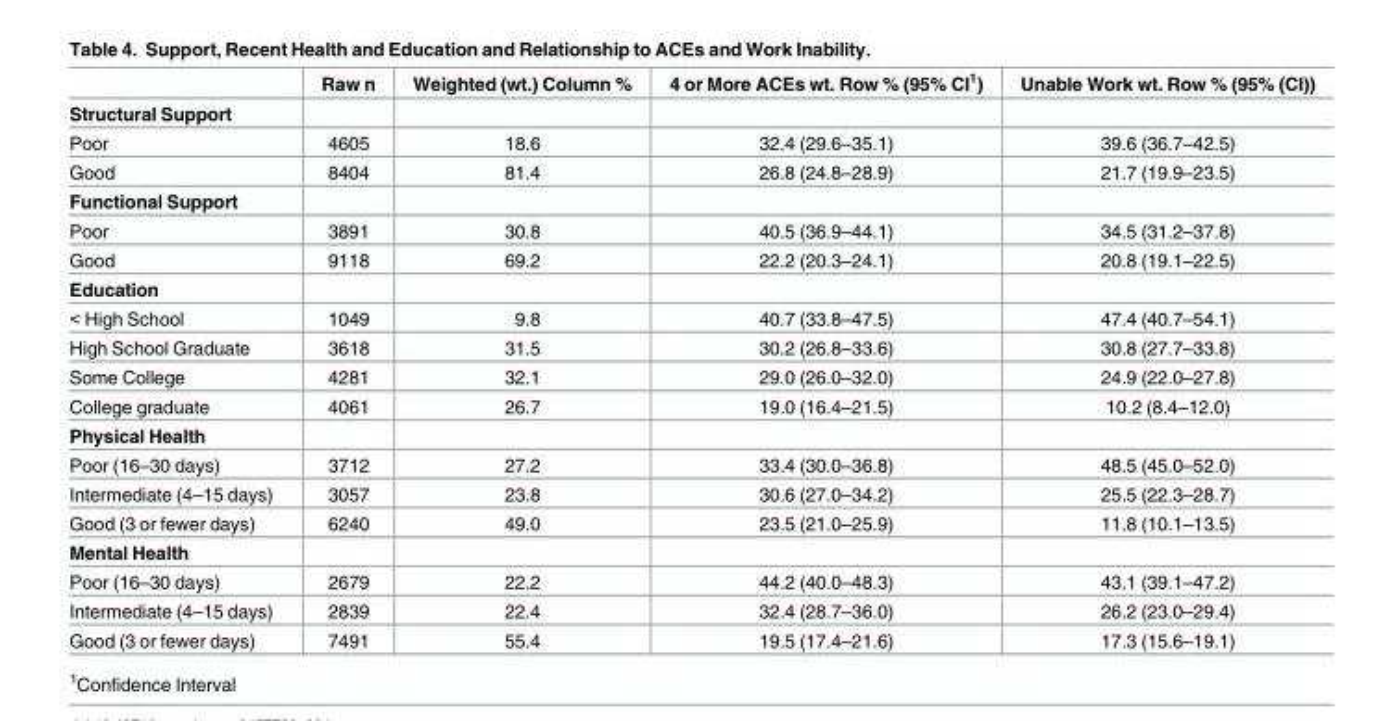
<table><thead><tr><td></td><td>Raw n</td><td>Weighted (wt.) Column %</td><td>4 or More ACEs wt. Row % (95% CI<sup>1</sup>)</td><td>Unable Work wt. Row % (95% (CI))</td></tr></thead><tbody><tr><td colspan="5">Structural Support</td></tr><tr><td>Poor</td><td>4605</td><td>18.6</td><td>32.4 (29.6–35.1)</td><td>39.6 (36.7–42.5)</td></tr><tr><td>Good</td><td>8404</td><td>81.4</td><td>26.8 (24.8–28.9)</td><td>21.7 (19.9–23.5)</td></tr><tr><td colspan="5">Functional Support</td></tr><tr><td>Poor</td><td>3891</td><td>30.8</td><td>40.5 (36.9–44.1)</td><td>34.5 (31.2–37.8)</td></tr><tr><td>Good</td><td>9118</td><td>69.2</td><td>22.2 (20.3–24.1)</td><td>20.8 (19.1–22.5)</td></tr><tr><td colspan="5">Education</td></tr><tr><td>&lt; High School</td><td>1049</td><td>9.8</td><td>40.7 (33.8–47.5)</td><td>47.4 (40.7–54.1)</td></tr><tr><td>High School Graduate</td><td>3618</td><td>31.5</td><td>30.2 (26.8–33.6)</td><td>30.8 (27.7–33.8)</td></tr><tr><td>Some College</td><td>4281</td><td>32.1</td><td>29.0 (26.0–32.0)</td><td>24.9 (22.0–27.8)</td></tr><tr><td>College graduate</td><td>4061</td><td>26.7</td><td>19.0 (16.4–21.5)</td><td>10.2 (8.4–12.0)</td></tr><tr><td colspan="5">Physical Health</td></tr><tr><td>Poor (16–30 days)</td><td>3712</td><td>27.2</td><td>33.4 (30.0–36.8)</td><td>48.5 (45.0–52.0)</td></tr><tr><td>Intermediate (4–15 days)</td><td>3057</td><td>23.8</td><td>30.6 (27.0–34.2)</td><td>25.5 (22.3–28.7)</td></tr><tr><td>Good (3 or fewer days)</td><td>6240</td><td>49.0</td><td>23.5 (21.0–25.9)</td><td>11.8 (10.1–13.5)</td></tr><tr><td colspan="5">Mental Health</td></tr><tr><td>Poor (16–30 days)</td><td>2679</td><td>22.2</td><td>44.2 (40.0–48.3)</td><td>43.1 (39.1–47.2)</td></tr><tr><td>Intermediate (4–15 days)</td><td>2839</td><td>22.4</td><td>32.4 (28.7–36.0)</td><td>26.2 (23.0–29.4)</td></tr><tr><td>Good (3 or fewer days)</td><td>7491</td><td>55.4</td><td>19.5 (17.4–21.6)</td><td>17.3 (15.6–19.1)</td></tr></tbody></table>